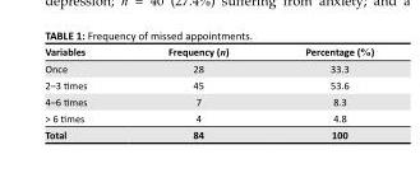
<table><thead><tr><td>Variables</td><td>Frequency (n)</td><td>Percentage (%)</td></tr></thead><tbody><tr><td>Once</td><td>28</td><td>33.3</td></tr><tr><td>2–3 times</td><td>45</td><td>53.6</td></tr><tr><td>4–6 times</td><td>7</td><td>8.3</td></tr><tr><td>&gt; 6 times</td><td>4</td><td>4.8</td></tr><tr><td>Total</td><td>84</td><td>100</td></tr></tbody></table>